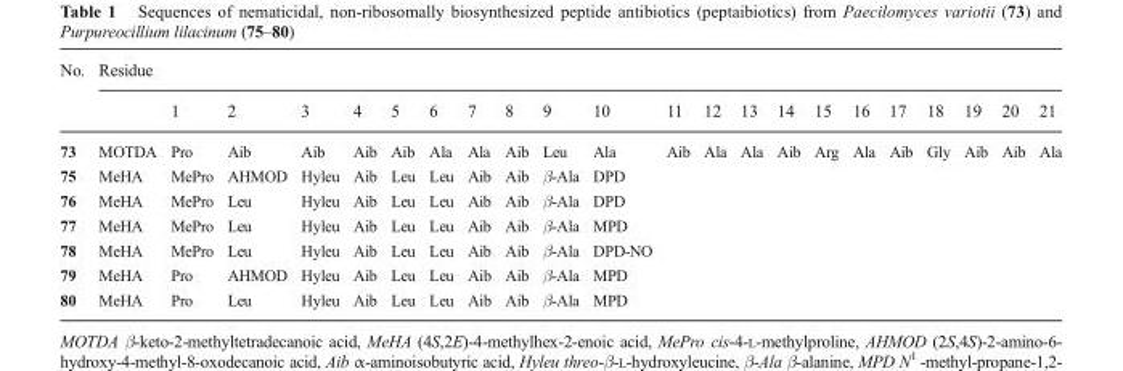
<table><thead><tr><td rowspan="2">No.</td><td colspan="22">Residue</td></tr><tr><td></td><td>1</td><td>2</td><td>3</td><td>4</td><td>5</td><td>6</td><td>7</td><td>8</td><td>9</td><td>10</td><td>11</td><td>12</td><td>13</td><td>14</td><td>15</td><td>16</td><td>17</td><td>18</td><td>19</td><td>20</td><td>21</td></tr></thead><tbody><tr><td>73</td><td>MOTDA</td><td>Pro</td><td>Aib</td><td>Aib</td><td>Aib</td><td>Aib</td><td>Ala</td><td>Ala</td><td>Aib</td><td>Leu</td><td>Ala</td><td>Aib</td><td>Ala</td><td>Ala</td><td>Aib</td><td>Arg</td><td>Ala</td><td>Aib</td><td>Gly</td><td>Aib</td><td>Aib</td><td>Ala</td></tr><tr><td>75</td><td>MeHA</td><td>MePro</td><td>AHMOD</td><td>Hyleu</td><td>Aib</td><td>Leu</td><td>Leu</td><td>Aib</td><td>Aib</td><td>β-Ala</td><td>DPD</td><td></td><td></td><td></td><td></td><td></td><td></td><td></td><td></td><td></td><td></td><td></td></tr><tr><td>76</td><td>MeHA</td><td>MePro</td><td>Leu</td><td>Hyleu</td><td>Aib</td><td>Leu</td><td>Leu</td><td>Aib</td><td>Aib</td><td>β-Ala</td><td>DPD</td><td></td><td></td><td></td><td></td><td></td><td></td><td></td><td></td><td></td><td></td><td></td></tr><tr><td>77</td><td>MeHA</td><td>MePro</td><td>Leu</td><td>Hyleu</td><td>Aib</td><td>Leu</td><td>Leu</td><td>Aib</td><td>Aib</td><td>β-Ala</td><td>MPD</td><td></td><td></td><td></td><td></td><td></td><td></td><td></td><td></td><td></td><td></td><td></td></tr><tr><td>78</td><td>MeHA</td><td>MePro</td><td>Leu</td><td>Hyleu</td><td>Aib</td><td>Leu</td><td>Leu</td><td>Aib</td><td>Aib</td><td>β-Ala</td><td>DPD-NO</td><td></td><td></td><td></td><td></td><td></td><td></td><td></td><td></td><td></td><td></td><td></td></tr><tr><td>79</td><td>MeHA</td><td>Pro</td><td>AHMOD</td><td>Hyleu</td><td>Aib</td><td>Leu</td><td>Leu</td><td>Aib</td><td>Aib</td><td>β-Ala</td><td>MPD</td><td></td><td></td><td></td><td></td><td></td><td></td><td></td><td></td><td></td><td></td><td></td></tr><tr><td>80</td><td>MeHA</td><td>Pro</td><td>Leu</td><td>Hyleu</td><td>Aib</td><td>Leu</td><td>Leu</td><td>Aib</td><td>Aib</td><td>β-Ala</td><td>MPD</td><td></td><td></td><td></td><td></td><td></td><td></td><td></td><td></td><td></td><td></td><td></td></tr></tbody></table>